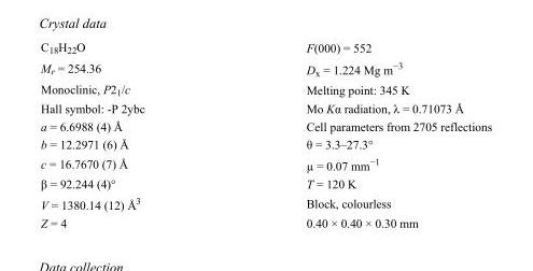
<table><tbody><tr><td>C<sub>18</sub>H<sub>22</sub>O</td><td>F(000) = 552</td></tr><tr><td>M<sub>r</sub> = 254.36</td><td>D<sub>x</sub> = 1.224 Mg m<sup>−3</sup></td></tr><tr><td>Monoclinic, P2<sub>1</sub>/c</td><td>Melting point: 345 K</td></tr><tr><td>Hall symbol: -P 2ybc</td><td>Mo Kα radiation, λ = 0.71073 Å</td></tr><tr><td>a = 6.6988 (4) Å</td><td>Cell parameters from 2705 reflections</td></tr><tr><td>b = 12.2971 (6) Å</td><td>θ = 3.3–27.3°</td></tr><tr><td>c = 16.7670 (7) Å</td><td>µ = 0.07 mm<sup>−1</sup></td></tr><tr><td>β = 92.244 (4)°</td><td>T = 120 K</td></tr><tr><td>V = 1380.14 (12) Å<sup>3</sup></td><td>Block, colourless</td></tr><tr><td>Z = 4</td><td>0.40 × 0.40 × 0.30 mm</td></tr></tbody></table>